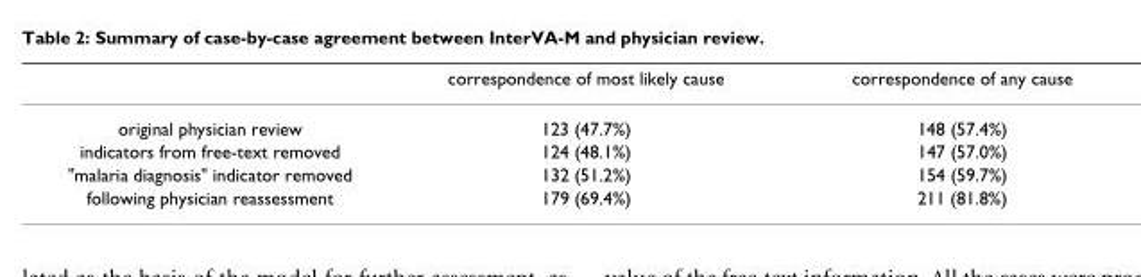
<table><thead><tr><td></td><td>correspondence of most likely cause</td><td>correspondence of any cause</td></tr></thead><tbody><tr><td>original physician review</td><td>123 (47.7%)</td><td>148 (57.4%)</td></tr><tr><td>indicators from free-text removed</td><td>124 (48.1%)</td><td>147 (57.0%)</td></tr><tr><td>&quot;malaria diagnosis&quot; indicator removed</td><td>132 (51.2%)</td><td>154 (59.7%)</td></tr><tr><td>following physician reassessment</td><td>179 (69.4%)</td><td>211 (81.8%)</td></tr></tbody></table>